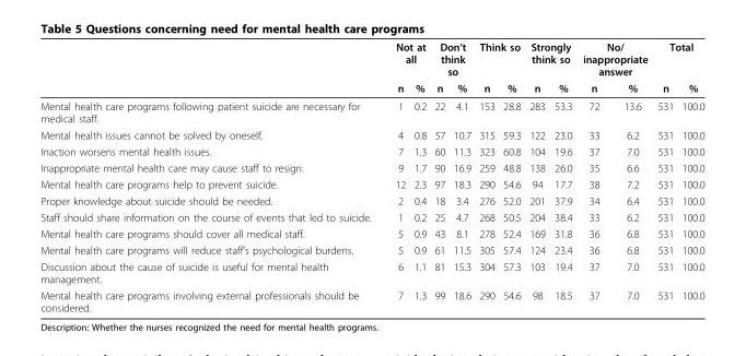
<table><thead><tr><td rowspan="2"></td><td colspan="2">Not at all</td><td colspan="2">Don’t think so</td><td colspan="2">Think so</td><td colspan="2">Strongly think so</td><td colspan="2">No/ inappropriate answer</td><td colspan="2">Total</td></tr><tr><td>n</td><td>%</td><td>n</td><td>%</td><td>n</td><td>%</td><td>n</td><td>%</td><td>n</td><td>%</td><td>n</td><td>%</td></tr></thead><tbody><tr><td>Mental health care programs following patient suicide are necessary for medical staff.</td><td>1</td><td>0.2</td><td>22</td><td>4.1</td><td>153</td><td>28.8</td><td>283</td><td>53.3</td><td>72</td><td>13.6</td><td>531</td><td>100.0</td></tr><tr><td>Mental health issues cannot be solved by oneself.</td><td>4</td><td>0.8</td><td>57</td><td>10.7</td><td>315</td><td>59.3</td><td>122</td><td>23.0</td><td>33</td><td>6.2</td><td>531</td><td>100.0</td></tr><tr><td>Inaction worsens mental health issues.</td><td>7</td><td>1.3</td><td>60</td><td>11.3</td><td>323</td><td>60.8</td><td>104</td><td>19.6</td><td>37</td><td>7.0</td><td>531</td><td>100.0</td></tr><tr><td>Inappropriate mental health care may cause staff to resign.</td><td>9</td><td>1.7</td><td>90</td><td>16.9</td><td>259</td><td>48.8</td><td>138</td><td>26.0</td><td>35</td><td>6.6</td><td>531</td><td>100.0</td></tr><tr><td>Mental health care programs help to prevent suicide.</td><td>12</td><td>2.3</td><td>97</td><td>18.3</td><td>290</td><td>54.6</td><td>94</td><td>17.7</td><td>38</td><td>7.2</td><td>531</td><td>100.0</td></tr><tr><td>Proper knowledge about suicide should be needed.</td><td>2</td><td>0.4</td><td>18</td><td>3.4</td><td>276</td><td>52.0</td><td>201</td><td>37.9</td><td>34</td><td>6.4</td><td>531</td><td>100.0</td></tr><tr><td>Staff should share information on the course of events that led to suicide.</td><td>1</td><td>0.2</td><td>25</td><td>4.7</td><td>268</td><td>50.5</td><td>204</td><td>38.4</td><td>33</td><td>6.2</td><td>531</td><td>100.0</td></tr><tr><td>Mental health care programs should cover all medical staff.</td><td>5</td><td>0.9</td><td>43</td><td>8.1</td><td>278</td><td>52.4</td><td>169</td><td>31.8</td><td>36</td><td>6.8</td><td>531</td><td>100.0</td></tr><tr><td>Mental health care programs will reduce staff’s psychological burdens.</td><td>5</td><td>0.9</td><td>61</td><td>11.5</td><td>305</td><td>57.4</td><td>124</td><td>23.4</td><td>36</td><td>6.8</td><td>531</td><td>100.0</td></tr><tr><td>Discussion about the cause of suicide is useful for mental health management.</td><td>6</td><td>1.1</td><td>81</td><td>15.3</td><td>304</td><td>57.3</td><td>103</td><td>19.4</td><td>37</td><td>7.0</td><td>531</td><td>100.0</td></tr><tr><td>Mental health care programs involving external professionals should be considered.</td><td>7</td><td>1.3</td><td>99</td><td>18.6</td><td>290</td><td>54.6</td><td>98</td><td>18.5</td><td>37</td><td>7.0</td><td>531</td><td>100.0</td></tr></tbody></table>